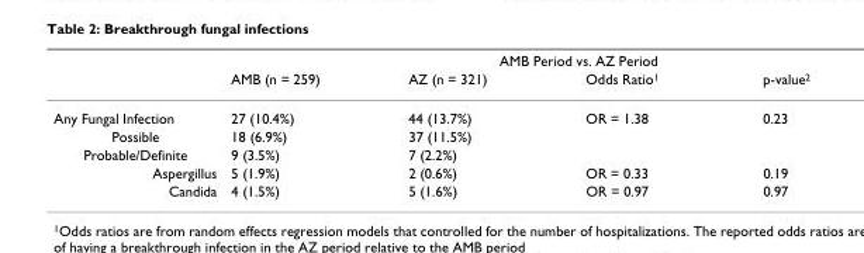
<table><thead><tr><td rowspan="2"></td><td colspan="4">AMB Period vs. AZ Period</td></tr><tr><td>AMB (n = 259)</td><td>AZ (n = 321)</td><td>Odds Ratio<sup>1</sup></td><td>p-value<sup>2</sup></td></tr></thead><tbody><tr><td>Any Fungal Infection</td><td>27 (10.4%)</td><td>44 (13.7%)</td><td>OR = 1.38</td><td>0.23</td></tr><tr><td>Possible</td><td>18 (6.9%)</td><td>37 (11.5%)</td><td></td><td></td></tr><tr><td>Probable/Definite</td><td>9 (3.5%)</td><td>7 (2.2%)</td><td></td><td></td></tr><tr><td>Aspergillus</td><td>5 (1.9%)</td><td>2 (0.6%)</td><td>OR = 0.33</td><td>0.19</td></tr><tr><td>Candida</td><td>4 (1.5%)</td><td>5 (1.6%)</td><td>OR = 0.97</td><td>0.97</td></tr></tbody></table>